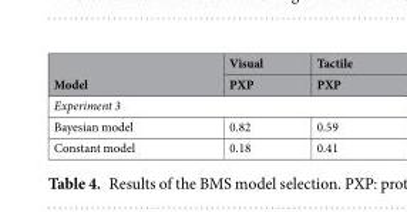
<table><thead><tr><td rowspan="2">Model</td><td rowspan="2">Visual PXP</td><td rowspan="2">Tactile PXP</td></tr><tr></tr></thead><tbody><tr><td colspan="3">Experiment 3</td></tr><tr><td>Bayesian model</td><td>0.82</td><td>0.59</td></tr><tr><td>Constant model</td><td>0.18</td><td>0.41</td></tr></tbody></table>